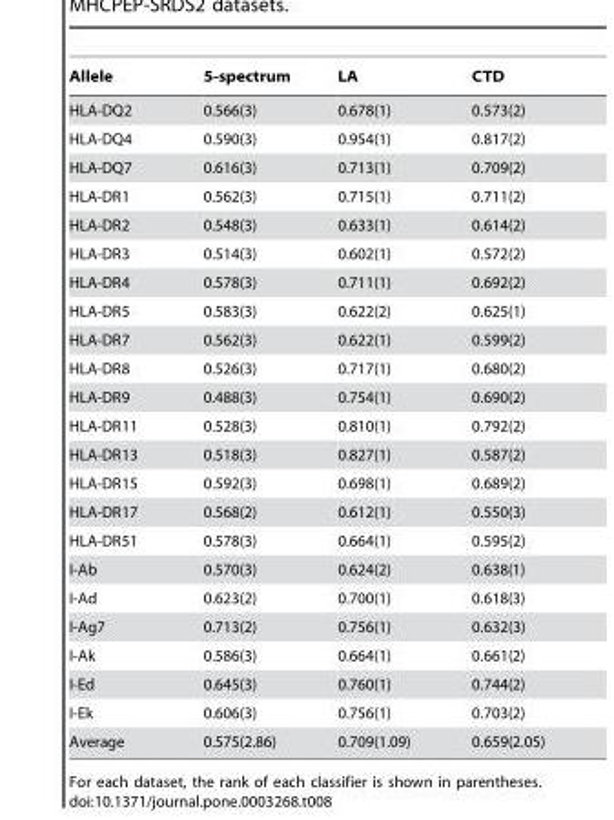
<table><thead><tr><td>Allele</td><td>5-spectrum</td><td>LA</td><td>CTD</td></tr></thead><tbody><tr><td>HLA-DQ2</td><td>0.566(3)</td><td>0.678(1)</td><td>0.573(2)</td></tr><tr><td>HLA-DQ4</td><td>0.590(3)</td><td>0.954(1)</td><td>0.817(2)</td></tr><tr><td>HLA-DQ7</td><td>0.616(3)</td><td>0.713(1)</td><td>0.709(2)</td></tr><tr><td>HLA-DR1</td><td>0.562(3)</td><td>0.715(1)</td><td>0.711(2)</td></tr><tr><td>HLA-DR2</td><td>0.548(3)</td><td>0.633(1)</td><td>0.614(2)</td></tr><tr><td>HLA-DR3</td><td>0.514(3)</td><td>0.602(1)</td><td>0.572(2)</td></tr><tr><td>HLA-DR4</td><td>0.578(3)</td><td>0.711(1)</td><td>0.692(2)</td></tr><tr><td>HLA-DR5</td><td>0.583(3)</td><td>0.622(2)</td><td>0.625(1)</td></tr><tr><td>HLA-DR7</td><td>0.562(3)</td><td>0.622(1)</td><td>0.599(2)</td></tr><tr><td>HLA-DR8</td><td>0.526(3)</td><td>0.717(1)</td><td>0.680(2)</td></tr><tr><td>HLA-DR9</td><td>0.488(3)</td><td>0.754(1)</td><td>0.690(2)</td></tr><tr><td>HLA-DR11</td><td>0.528(3)</td><td>0.810(1)</td><td>0.792(2)</td></tr><tr><td>HLA-DR13</td><td>0.518(3)</td><td>0.827(1)</td><td>0.587(2)</td></tr><tr><td>HLA-DR15</td><td>0.592(3)</td><td>0.698(1)</td><td>0.689(2)</td></tr><tr><td>HLA-DR17</td><td>0.568(2)</td><td>0.612(1)</td><td>0.550(3)</td></tr><tr><td>HLA-DR51</td><td>0.578(3)</td><td>0.664(1)</td><td>0.595(2)</td></tr><tr><td>I-Ab</td><td>0.570(3)</td><td>0.624(2)</td><td>0.638(1)</td></tr><tr><td>I-Ad</td><td>0.623(2)</td><td>0.700(1)</td><td>0.618(3)</td></tr><tr><td>I-Ag7</td><td>0.713(2)</td><td>0.756(1)</td><td>0.632(3)</td></tr><tr><td>I-Ak</td><td>0.586(3)</td><td>0.664(1)</td><td>0.661(2)</td></tr><tr><td>I-Ed</td><td>0.645(3)</td><td>0.760(1)</td><td>0.744(2)</td></tr><tr><td>I-Ek</td><td>0.606(3)</td><td>0.756(1)</td><td>0.703(2)</td></tr><tr><td>Average</td><td>0.575(2.86)</td><td>0.709(1.09)</td><td>0.659(2.05)</td></tr></tbody></table>